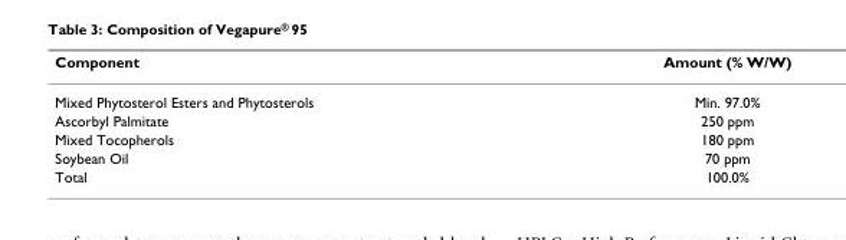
<table><thead><tr><td>Component</td><td>Amount (% W/W)</td></tr></thead><tbody><tr><td>Mixed Phytosterol Esters and Phytosterols</td><td>Min. 97.0%</td></tr><tr><td>Ascorbyl Palmitate</td><td>250 ppm</td></tr><tr><td>Mixed Tocopherols</td><td>180 ppm</td></tr><tr><td>Soybean Oil</td><td>70 ppm</td></tr><tr><td>Total</td><td>100.0%</td></tr></tbody></table>